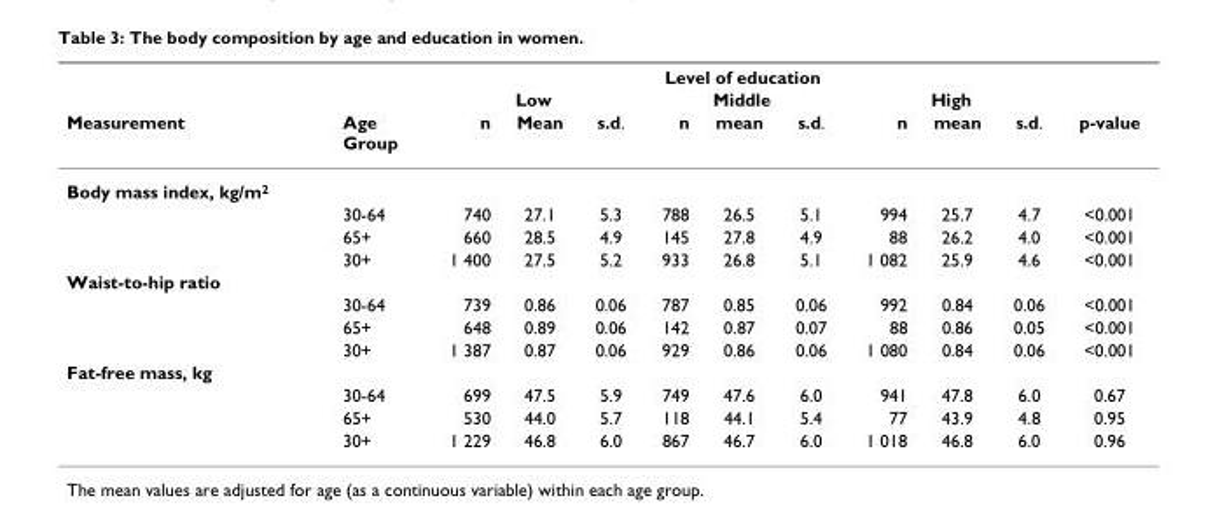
<table><thead><tr><td rowspan="3">Measurement</td><td rowspan="3">Age Group</td><td colspan="9">Level of education</td><td rowspan="3">p-value</td></tr><tr><td colspan="3">Low</td><td colspan="3">Middle</td><td colspan="3">High</td></tr><tr><td>n</td><td>Mean</td><td>s.d.</td><td>n</td><td>mean</td><td>s.d.</td><td>n</td><td>mean</td><td>s.d.</td></tr></thead><tbody><tr><td colspan="12">Body mass index, kg/m<sup>2</sup></td></tr><tr><td></td><td>30-64</td><td>740</td><td>27.1</td><td>5.3</td><td>788</td><td>26.5</td><td>5.1</td><td>994</td><td>25.7</td><td>4.7</td><td>&lt;0.001</td></tr><tr><td></td><td>65+</td><td>660</td><td>28.5</td><td>4.9</td><td>145</td><td>27.8</td><td>4.9</td><td>88</td><td>26.2</td><td>4.0</td><td>&lt;0.001</td></tr><tr><td></td><td>30+</td><td>1 400</td><td>27.5</td><td>5.2</td><td>933</td><td>26.8</td><td>5.1</td><td>1 082</td><td>25.9</td><td>4.6</td><td>&lt;0.001</td></tr><tr><td colspan="12">Waist-to-hip ratio</td></tr><tr><td></td><td>30-64</td><td>739</td><td>0.86</td><td>0.06</td><td>787</td><td>0.85</td><td>0.06</td><td>992</td><td>0.84</td><td>0.06</td><td>&lt;0.001</td></tr><tr><td></td><td>65+</td><td>648</td><td>0.89</td><td>0.06</td><td>142</td><td>0.87</td><td>0.07</td><td>88</td><td>0.86</td><td>0.05</td><td>&lt;0.001</td></tr><tr><td></td><td>30+</td><td>1 387</td><td>0.87</td><td>0.06</td><td>929</td><td>0.86</td><td>0.06</td><td>1 080</td><td>0.84</td><td>0.06</td><td>&lt;0.001</td></tr><tr><td colspan="12">Fat-free mass, kg</td></tr><tr><td></td><td>30-64</td><td>699</td><td>47.5</td><td>5.9</td><td>749</td><td>47.6</td><td>6.0</td><td>941</td><td>47.8</td><td>6.0</td><td>0.67</td></tr><tr><td></td><td>65+</td><td>530</td><td>44.0</td><td>5.7</td><td>118</td><td>44.1</td><td>5.4</td><td>77</td><td>43.9</td><td>4.8</td><td>0.95</td></tr><tr><td></td><td>30+</td><td>1 229</td><td>46.8</td><td>6.0</td><td>867</td><td>46.7</td><td>6.0</td><td>1 018</td><td>46.8</td><td>6.0</td><td>0.96</td></tr></tbody></table>